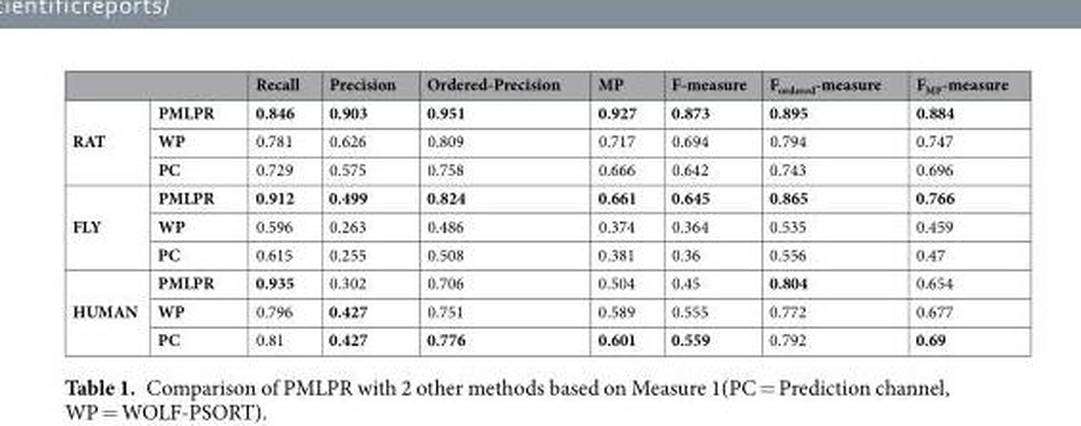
<table><thead><tr><td></td><td></td><td>Recall</td><td>Precision</td><td>Ordered-Precision</td><td>MP</td><td>F-measure</td><td>F<sub>ordered</sub>-measure</td><td>F<sub>MP</sub>-measure</td></tr></thead><tbody><tr><td rowspan="3">RAT</td><td>PMLPR</td><td>0.846</td><td>0.903</td><td>0.951</td><td>0.927</td><td>0.873</td><td>0.895</td><td>0.884</td></tr><tr><td>WP</td><td>0.781</td><td>0.626</td><td>0.809</td><td>0.717</td><td>0.694</td><td>0.794</td><td>0.747</td></tr><tr><td>PC</td><td>0.729</td><td>0.575</td><td>0.758</td><td>0.666</td><td>0.642</td><td>0.743</td><td>0.696</td></tr><tr><td rowspan="3">FLY</td><td>PMLPR</td><td>0.912</td><td>0.499</td><td>0.824</td><td>0.661</td><td>0.645</td><td>0.865</td><td>0.766</td></tr><tr><td>WP</td><td>0.596</td><td>0.263</td><td>0.486</td><td>0.374</td><td>0.364</td><td>0.535</td><td>0.459</td></tr><tr><td>PC</td><td>0.615</td><td>0.255</td><td>0.508</td><td>0.381</td><td>0.36</td><td>0.556</td><td>0.47</td></tr><tr><td rowspan="3">HUMAN</td><td>PMLPR</td><td>0.935</td><td>0.302</td><td>0.706</td><td>0.504</td><td>0.45</td><td>0.804</td><td>0.654</td></tr><tr><td>WP</td><td>0.796</td><td>0.427</td><td>0.751</td><td>0.589</td><td>0.555</td><td>0.772</td><td>0.677</td></tr><tr><td>PC</td><td>0.81</td><td>0.427</td><td>0.776</td><td>0.601</td><td>0.559</td><td>0.792</td><td>0.69</td></tr></tbody></table>